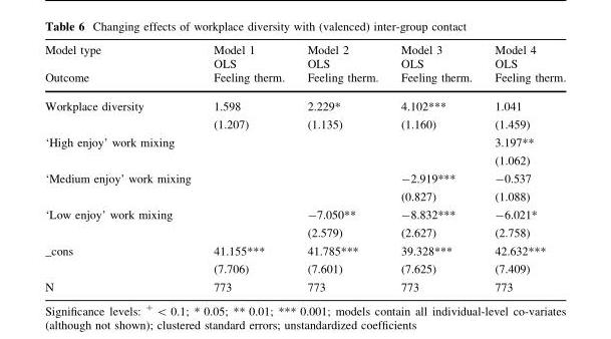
<table><thead><tr><td rowspan="3">Model type Outcome</td><td rowspan="3">Model 1 OLS Feeling therm.</td><td rowspan="3">Model 2 OLS Feeling therm.</td><td rowspan="3">Model 3 OLS Feeling therm.</td><td rowspan="3">Model 4 OLS Feeling therm.</td></tr><tr></tr><tr></tr></thead><tbody><tr><td rowspan="2">Workplace diversity</td><td>1.598</td><td>2.229*</td><td>4.102***</td><td>1.041</td></tr><tr><td>(1.207)</td><td>(1.135)</td><td>(1.160)</td><td>(1.459)</td></tr><tr><td rowspan="2">‘High enjoy’ work mixing</td><td></td><td></td><td></td><td>3.197**</td></tr><tr><td></td><td></td><td></td><td>(1.062)</td></tr><tr><td rowspan="2">‘Medium enjoy’ work mixing</td><td></td><td></td><td>-2.919***</td><td>-0.537</td></tr><tr><td></td><td></td><td>(0.827)</td><td>(1.088)</td></tr><tr><td rowspan="2">‘Low enjoy’ work mixing</td><td></td><td>-7.050**</td><td>-8.832***</td><td>-6.021*</td></tr><tr><td></td><td>(2.579)</td><td>(2.627)</td><td>(2.758)</td></tr><tr><td rowspan="2">_cons</td><td>41.155***</td><td>41.785***</td><td>39.328***</td><td>42.632***</td></tr><tr><td>(7.706)</td><td>(7.601)</td><td>(7.625)</td><td>(7.409)</td></tr><tr><td>N</td><td>773</td><td>773</td><td>773</td><td>773</td></tr></tbody></table>